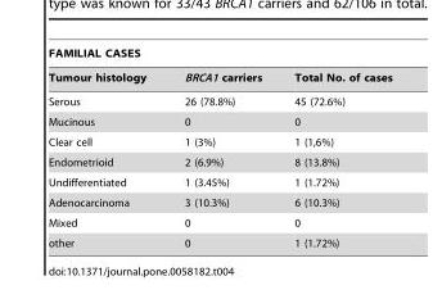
<table><thead><tr><td colspan="3">FAMILIAL CASES</td></tr><tr><td>Tumour histology</td><td>BRCA1 carriers</td><td>Total No. of cases</td></tr></thead><tbody><tr><td>Serous</td><td>26 (78.8%)</td><td>45 (72.6%)</td></tr><tr><td>Mucinous</td><td>0</td><td>0</td></tr><tr><td>Clear cell</td><td>1 (3%)</td><td>1 (1,6%)</td></tr><tr><td>Endometrioid</td><td>2 (6.9%)</td><td>8 (13.8%)</td></tr><tr><td>Undifferentiated</td><td>1 (3.45%)</td><td>1 (1.72%)</td></tr><tr><td>Adenocarcinoma</td><td>3 (10.3%)</td><td>6 (10.3%)</td></tr><tr><td>Mixed</td><td>0</td><td>0</td></tr><tr><td>other</td><td>0</td><td>1 (1.72%)</td></tr></tbody></table>